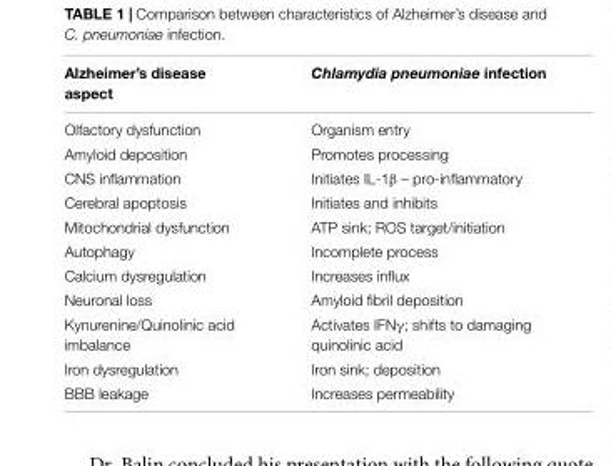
<table><thead><tr><td>Alzheimer’s disease aspect</td><td>Chlamydia pneumoniae infection</td></tr></thead><tbody><tr><td>Olfactory dysfunction</td><td>Organism entry</td></tr><tr><td>Amyloid deposition</td><td>Promotes processing</td></tr><tr><td>CNS inflammation</td><td>Initiates IL-1β – pro-inflammatory</td></tr><tr><td>Cerebral apoptosis</td><td>Initiates and inhibits</td></tr><tr><td>Mitochondrial dysfunction</td><td>ATP sink; ROS target/initiation</td></tr><tr><td>Autophagy</td><td>Incomplete process</td></tr><tr><td>Calcium dysregulation</td><td>Increases influx</td></tr><tr><td>Neuronal loss</td><td>Amyloid fibril deposition</td></tr><tr><td>Kynurenine/Quinolinic acid imbalance</td><td>Activates IFNγ; shifts to damaging quinolinic acid</td></tr><tr><td>Iron dysregulation</td><td>Iron sink; deposition</td></tr><tr><td>BBB leakage</td><td>Increases permeability</td></tr></tbody></table>